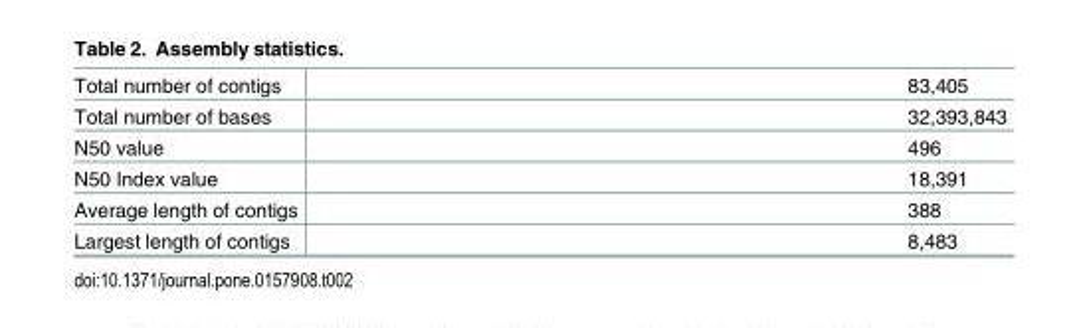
<table><tbody><tr><td>Total number of contigs</td><td>83,405</td></tr><tr><td>Total number of bases</td><td>32,393,843</td></tr><tr><td>N50 value</td><td>496</td></tr><tr><td>N50 Index value</td><td>18,391</td></tr><tr><td>Average length of contigs</td><td>388</td></tr><tr><td>Largest length of contigs</td><td>8,483</td></tr></tbody></table>